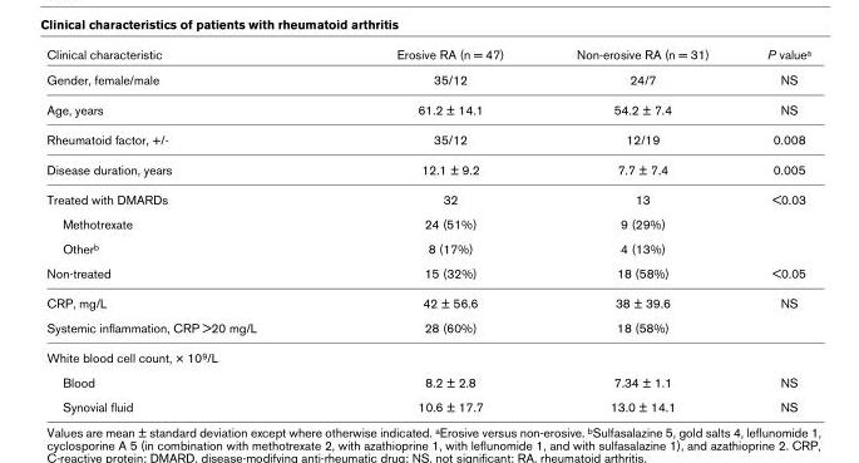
<table><thead><tr><td>Clinical characteristic</td><td>Erosive RA (n = 47)</td><td>Non-erosive RA (n = 31)</td><td>P value<sup>a</sup></td></tr></thead><tbody><tr><td>Gender, female/male</td><td>35/12</td><td>24/7</td><td>NS</td></tr><tr><td>Age, years</td><td>61.2 ± 14.1</td><td>54.2 ± 7.4</td><td>NS</td></tr><tr><td>Rheumatoid factor, +/-</td><td>35/12</td><td>12/19</td><td>0.008</td></tr><tr><td>Disease duration, years</td><td>12.1 ± 9.2</td><td>7.7 ± 7.4</td><td>0.005</td></tr><tr><td>Treated with DMARDs</td><td>32</td><td>13</td><td>&lt;0.03</td></tr><tr><td>Methotrexate</td><td>24 (51%)</td><td>9 (29%)</td><td></td></tr><tr><td>Other<sup>b</sup></td><td>8 (17%)</td><td>4 (13%)</td><td></td></tr><tr><td>Non-treated</td><td>15 (32%)</td><td>18 (58%)</td><td>&lt;0.05</td></tr><tr><td>CRP, mg/L</td><td>42 ± 56.6</td><td>38 ± 39.6</td><td>NS</td></tr><tr><td>Systemic inflammation, CRP &gt;20 mg/L</td><td>28 (60%)</td><td>18 (58%)</td><td></td></tr><tr><td colspan="4">White blood cell count, × 10<sup>9</sup>/L</td></tr><tr><td>Blood</td><td>8.2 ± 2.8</td><td>7.34 ± 1.1</td><td>NS</td></tr><tr><td>Synovial fluid</td><td>10.6 ± 17.7</td><td>13.0 ± 14.1</td><td>NS</td></tr></tbody></table>